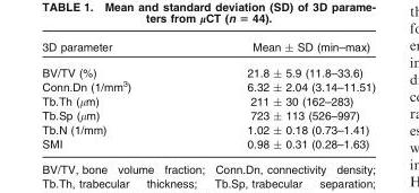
<table><thead><tr><td>3D parameter</td><td>Mean ± SD (min–max)</td></tr></thead><tbody><tr><td>BV/TV (%)</td><td>21.8 ± 5.9 (11.8–33.6)</td></tr><tr><td>Conn.Dn (1/mm<sup>3</sup>)</td><td>6.32 ± 2.04 (3.14–11.51)</td></tr><tr><td>Tb.Th (µm)</td><td>211 ± 30 (162–283)</td></tr><tr><td>Tb.Sp (µm)</td><td>723 ± 113 (526–997)</td></tr><tr><td>Tb.N (1/mm)</td><td>1.02 ± 0.18 (0.73–1.41)</td></tr><tr><td>SMI</td><td>0.98 ± 0.31 (0.28–1.63)</td></tr></tbody></table>